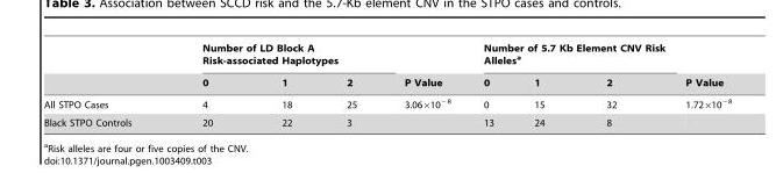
<table><thead><tr><td rowspan="2"></td><td colspan="3">Number of LD Block A Risk-associated Haplotypes</td><td rowspan="2">P Value</td><td colspan="3">Number of 5.7 Kb Element CNV Risk Alleles<sup>a</sup></td><td rowspan="2">P Value</td></tr><tr><td>0</td><td>1</td><td>2</td><td>0</td><td>1</td><td>2</td></tr></thead><tbody><tr><td>All STPO Cases</td><td>4</td><td>18</td><td>25</td><td>3.06×10<sup>−8</sup></td><td>0</td><td>15</td><td>32</td><td>1.72×10<sup>−8</sup></td></tr><tr><td>Black STPO Controls</td><td>20</td><td>22</td><td>3</td><td></td><td>13</td><td>24</td><td>8</td><td></td></tr></tbody></table>